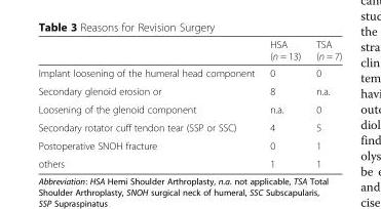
<table><thead><tr><td></td><td>HSA (n = 13)</td><td>TSA (n = 7)</td></tr></thead><tbody><tr><td>Implant loosening of the humeral head component</td><td>0</td><td>0</td></tr><tr><td>Secondary glenoid erosion or</td><td>8</td><td>n.a.</td></tr><tr><td>Loosening of the glenoid component</td><td>n.a.</td><td>0</td></tr><tr><td>Secondary rotator cuff tendon tear (SSP or SSC)</td><td>4</td><td>5</td></tr><tr><td>Postoperative SNOH fracture</td><td>0</td><td>1</td></tr><tr><td>others</td><td>1</td><td>1</td></tr></tbody></table>